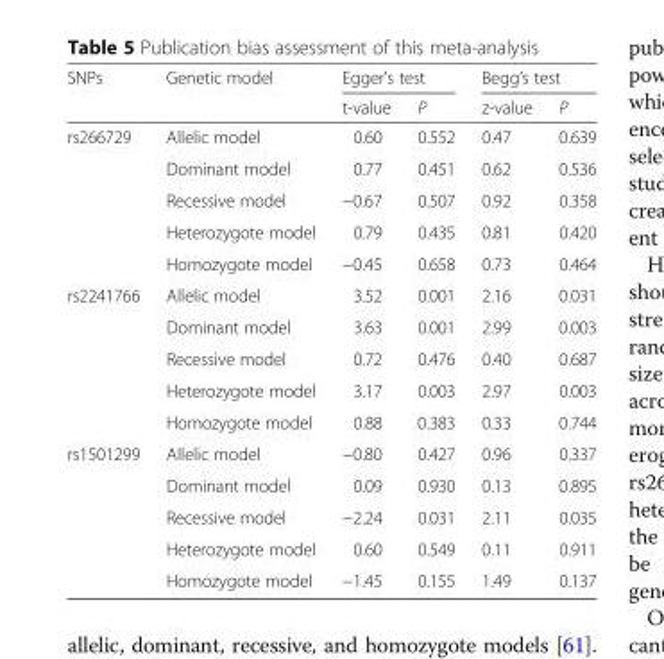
<table><thead><tr><td rowspan="2">SNPs</td><td rowspan="2">Genetic model</td><td colspan="2">Egger’s test</td><td colspan="2">Begg’s test</td></tr><tr><td>t-value</td><td>P</td><td>z-value</td><td>P</td></tr></thead><tbody><tr><td rowspan="5">rs266729</td><td>Allelic model</td><td>0.60</td><td>0.552</td><td>0.47</td><td>0.639</td></tr><tr><td>Dominant model</td><td>0.77</td><td>0.451</td><td>0.62</td><td>0.536</td></tr><tr><td>Recessive model</td><td>−0.67</td><td>0.507</td><td>0.92</td><td>0.358</td></tr><tr><td>Heterozygote model</td><td>0.79</td><td>0.435</td><td>0.81</td><td>0.420</td></tr><tr><td>Homozygote model</td><td>−0.45</td><td>0.658</td><td>0.73</td><td>0.464</td></tr><tr><td rowspan="5">rs2241766</td><td>Allelic model</td><td>3.52</td><td>0.001</td><td>2.16</td><td>0.031</td></tr><tr><td>Dominant model</td><td>3.63</td><td>0.001</td><td>2.99</td><td>0.003</td></tr><tr><td>Recessive model</td><td>0.72</td><td>0.476</td><td>0.40</td><td>0.687</td></tr><tr><td>Heterozygote model</td><td>3.17</td><td>0.003</td><td>2.97</td><td>0.003</td></tr><tr><td>Homozygote model</td><td>0.88</td><td>0.383</td><td>0.33</td><td>0.744</td></tr><tr><td rowspan="5">rs1501299</td><td>Allelic model</td><td>−0.80</td><td>0.427</td><td>0.96</td><td>0.337</td></tr><tr><td>Dominant model</td><td>0.09</td><td>0.930</td><td>0.13</td><td>0.895</td></tr><tr><td>Recessive model</td><td>−2.24</td><td>0.031</td><td>2.11</td><td>0.035</td></tr><tr><td>Heterozygote model</td><td>0.60</td><td>0.549</td><td>0.11</td><td>0.911</td></tr><tr><td>Homozygote model</td><td>−1.45</td><td>0.155</td><td>1.49</td><td>0.137</td></tr></tbody></table>